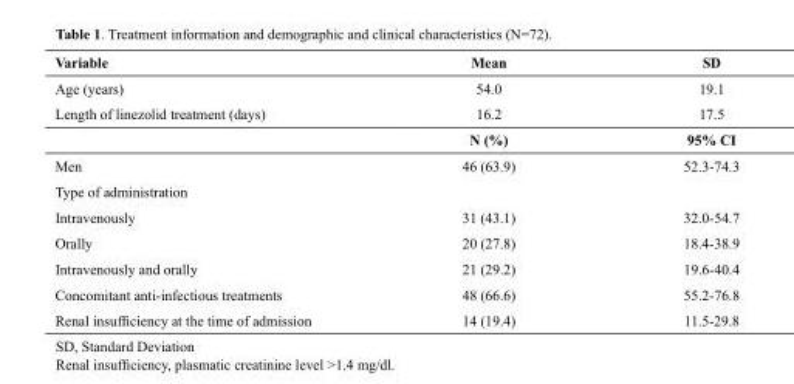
<table><thead><tr><td>Variable</td><td>Mean</td><td>SD</td></tr></thead><tbody><tr><td>Age (years)</td><td>54.0</td><td>19.1</td></tr><tr><td rowspan="2">Length of linezolid treatment (days)</td><td>16.2</td><td>17.5</td></tr><tr><td>N (%)</td><td>95% CI</td></tr><tr><td>Men</td><td>46 (63.9)</td><td>52.3-74.3</td></tr><tr><td colspan="3">Type of administration</td></tr><tr><td>Intravenously</td><td>31 (43.1)</td><td>32.0-54.7</td></tr><tr><td>Orally</td><td>20 (27.8)</td><td>18.4-38.9</td></tr><tr><td>Intravenously and orally</td><td>21 (29.2)</td><td>19.6-40.4</td></tr><tr><td>Concomitant anti-infectious treatments</td><td>48 (66.6)</td><td>55.2-76.8</td></tr><tr><td>Renal insufficiency at the time of admission</td><td>14 (19.4)</td><td>11.5-29.8</td></tr></tbody></table>